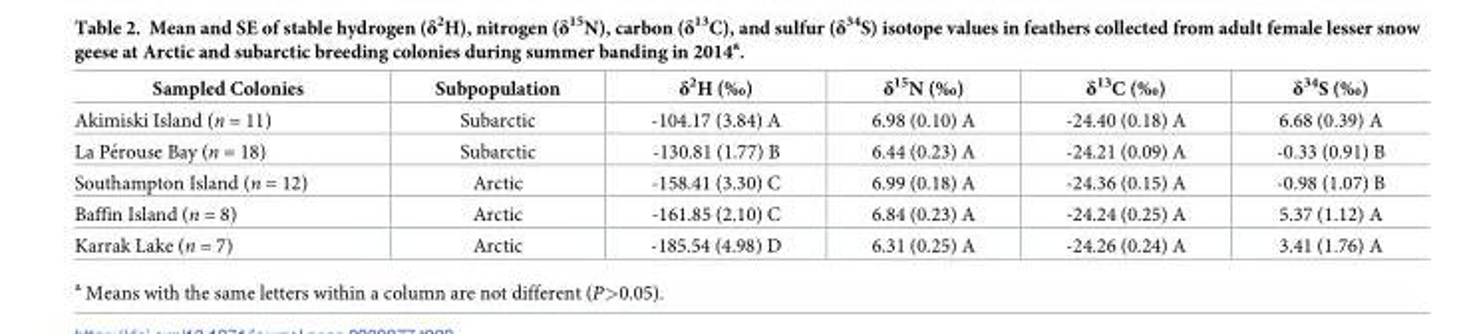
<table><thead><tr><td>Sampled Colonies</td><td>Subpopulation</td><td>δ<sup>2</sup>H (‰)</td><td>δ<sup>15</sup>N (‰)</td><td>δ<sup>13</sup>C (‰)</td><td>δ<sup>34</sup>S (‰)</td></tr></thead><tbody><tr><td>Akimiski Island (n = 11)</td><td>Subarctic</td><td>-104.17 (3.84) A</td><td>6.98 (0.10) A</td><td>-24.40 (0.18) A</td><td>6.68 (0.39) A</td></tr><tr><td>La Pe´rouse Bay (n = 18)</td><td>Subarctic</td><td>-130.81 (1.77) B</td><td>6.44 (0.23) A</td><td>-24.21 (0.09) A</td><td>-0.33 (0.91) B</td></tr><tr><td>Southampton Island (n = 12)</td><td>Arctic</td><td>-158.41 (3.30) C</td><td>6.99 (0.18) A</td><td>-24.36 (0.15) A</td><td>-0.98 (1.07) B</td></tr><tr><td>Baffin Island (n = 8)</td><td>Arctic</td><td>-161.85 (2.10) C</td><td>6.84 (0.23) A</td><td>-24.24 (0.25) A</td><td>5.37 (1.12) A</td></tr><tr><td>Karrak Lake (n = 7)</td><td>Arctic</td><td>-185.54 (4.98) D</td><td>6.31 (0.25) A</td><td>-24.26 (0.24) A</td><td>3.41 (1.76) A</td></tr></tbody></table>